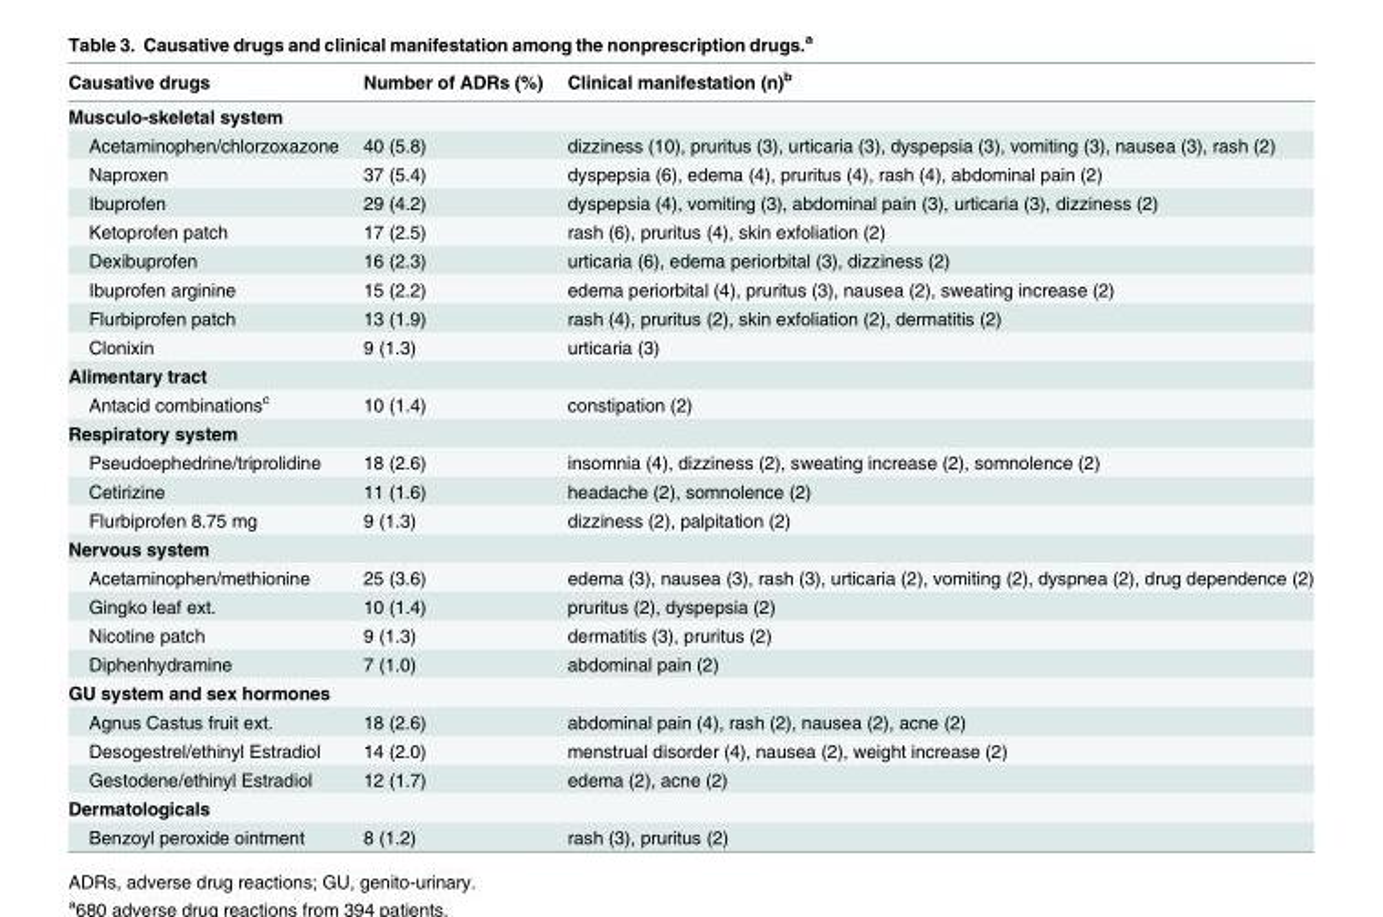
<table><thead><tr><td>Causative drugs</td><td>Number of ADRs (%)</td><td>Clinical manifestation (n)<sup>b</sup></td></tr></thead><tbody><tr><td colspan="3">Musculo-skeletal system</td></tr><tr><td>Acetaminophen/chlorzoxazone</td><td>40 (5.8)</td><td>dizziness (10), pruritus (3), urticaria (3), dyspepsia (3), vomiting (3), nausea (3), rash (2)</td></tr><tr><td>Naproxen</td><td>37 (5.4)</td><td>dyspepsia (6), edema (4), pruritus (4), rash (4), abdominal pain (2)</td></tr><tr><td>Ibuprofen</td><td>29 (4.2)</td><td>dyspepsia (4), vomiting (3), abdominal pain (3), urticaria (3), dizziness (2)</td></tr><tr><td>Ketoprofen patch</td><td>17 (2.5)</td><td>rash (6), pruritus (4), skin exfoliation (2)</td></tr><tr><td>Dexibuprofen</td><td>16 (2.3)</td><td>urticaria (6), edema periorbital (3), dizziness (2)</td></tr><tr><td>Ibuprofen arginine</td><td>15 (2.2)</td><td>edema periorbital (4), pruritus (3), nausea (2), sweating increase (2)</td></tr><tr><td>Flurbiprofen patch</td><td>13 (1.9)</td><td>rash (4), pruritus (2), skin exfoliation (2), dermatitis (2)</td></tr><tr><td>Clonixin</td><td>9 (1.3)</td><td>urticaria (3)</td></tr><tr><td colspan="3">Alimentary tract</td></tr><tr><td>Antacid combinations<sup>c</sup></td><td>10 (1.4)</td><td>constipation (2)</td></tr><tr><td colspan="3">Respiratory system</td></tr><tr><td>Pseudoephedrine/triprolidine</td><td>18 (2.6)</td><td>insomnia (4), dizziness (2), sweating increase (2), somnolence (2)</td></tr><tr><td>Cetirizine</td><td>11 (1.6)</td><td>headache (2), somnolence (2)</td></tr><tr><td>Flurbiprofen 8.75 mg</td><td>9 (1.3)</td><td>dizziness (2), palpitation (2)</td></tr><tr><td colspan="3">Nervous system</td></tr><tr><td>Acetaminophen/methionine</td><td>25 (3.6)</td><td>edema (3), nausea (3), rash (3), urticaria (2), vomiting (2), dyspnea (2), drug dependence (2)</td></tr><tr><td>Gingko leaf ext.</td><td>10 (1.4)</td><td>pruritus (2), dyspepsia (2)</td></tr><tr><td>Nicotine patch</td><td>9 (1.3)</td><td>dermatitis (3), pruritus (2)</td></tr><tr><td>Diphenhydramine</td><td>7 (1.0)</td><td>abdominal pain (2)</td></tr><tr><td colspan="3">GU system and sex hormones</td></tr><tr><td>Agnus Castus fruit ext.</td><td>18 (2.6)</td><td>abdominal pain (4), rash (2), nausea (2), acne (2)</td></tr><tr><td>Desogestrel/ethinyl Estradiol</td><td>14 (2.0)</td><td>menstrual disorder (4), nausea (2), weight increase (2)</td></tr><tr><td>Gestodene/ethinyl Estradiol</td><td>12 (1.7)</td><td>edema (2), acne (2)</td></tr><tr><td colspan="3">Dermatologicals</td></tr><tr><td>Benzoyl peroxide ointment</td><td>8 (1.2)</td><td>rash (3), pruritus (2)</td></tr></tbody></table>